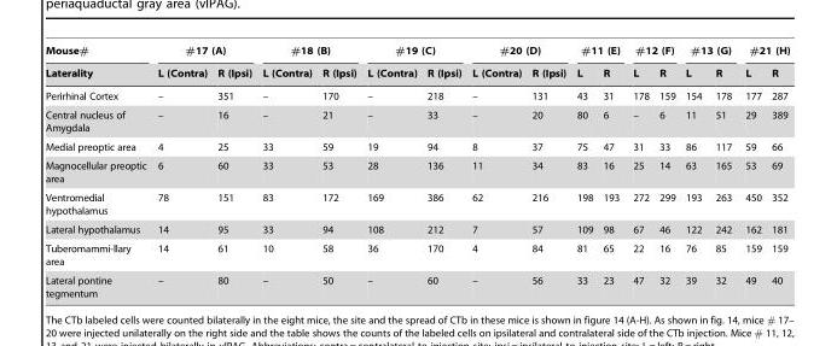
<table><thead><tr><td rowspan="2">Mouse# Laterality</td><td colspan="2">#17 (A)</td><td colspan="2">#18 (B)</td><td colspan="2">#19 (C)</td><td colspan="2">#20 (D)</td><td colspan="2">#11 (E)</td><td colspan="2">#12 (F)</td><td colspan="2">#13 (G)</td><td colspan="2">#21 (H)</td></tr><tr><td>L (Contra)</td><td>R (Ipsi)</td><td>L (Contra)</td><td>R (Ipsi)</td><td>L (Contra)</td><td>R (Ipsi)</td><td>L (Contra)</td><td>R (Ipsi)</td><td>L</td><td>R</td><td>L</td><td>R</td><td>L</td><td>R</td><td>L</td><td>R</td></tr></thead><tbody><tr><td>Perirhinal Cortex</td><td>–</td><td>351</td><td>–</td><td>170</td><td>–</td><td>218</td><td>–</td><td>131</td><td>43</td><td>31</td><td>178</td><td>159</td><td>154</td><td>178</td><td>177</td><td>287</td></tr><tr><td>Central nucleus of Amygdala</td><td>–</td><td>16</td><td>–</td><td>21</td><td>–</td><td>33</td><td>–</td><td>20</td><td>80</td><td>6</td><td>–</td><td>6</td><td>11</td><td>51</td><td>29</td><td>389</td></tr><tr><td>Medial preoptic area</td><td>4</td><td>25</td><td>33</td><td>59</td><td>19</td><td>94</td><td>8</td><td>37</td><td>75</td><td>47</td><td>31</td><td>33</td><td>86</td><td>117</td><td>59</td><td>66</td></tr><tr><td>Magnocellular preoptic area</td><td>6</td><td>60</td><td>33</td><td>53</td><td>28</td><td>136</td><td>11</td><td>34</td><td>83</td><td>16</td><td>25</td><td>14</td><td>63</td><td>165</td><td>53</td><td>69</td></tr><tr><td>Ventromedial hypothalamus</td><td>78</td><td>151</td><td>83</td><td>172</td><td>169</td><td>386</td><td>62</td><td>216</td><td>198</td><td>193</td><td>272</td><td>299</td><td>193</td><td>263</td><td>450</td><td>352</td></tr><tr><td>Lateral hypothalamus</td><td>14</td><td>95</td><td>33</td><td>94</td><td>108</td><td>212</td><td>7</td><td>57</td><td>109</td><td>98</td><td>67</td><td>46</td><td>122</td><td>242</td><td>162</td><td>181</td></tr><tr><td>Tuberomammi-llary area</td><td>14</td><td>61</td><td>10</td><td>58</td><td>36</td><td>170</td><td>4</td><td>84</td><td>81</td><td>65</td><td>22</td><td>16</td><td>76</td><td>85</td><td>159</td><td>159</td></tr><tr><td>Lateral pontine tegmentum</td><td>–</td><td>80</td><td>–</td><td>50</td><td>–</td><td>60</td><td>–</td><td>56</td><td>33</td><td>23</td><td>47</td><td>32</td><td>39</td><td>32</td><td>49</td><td>40</td></tr></tbody></table>